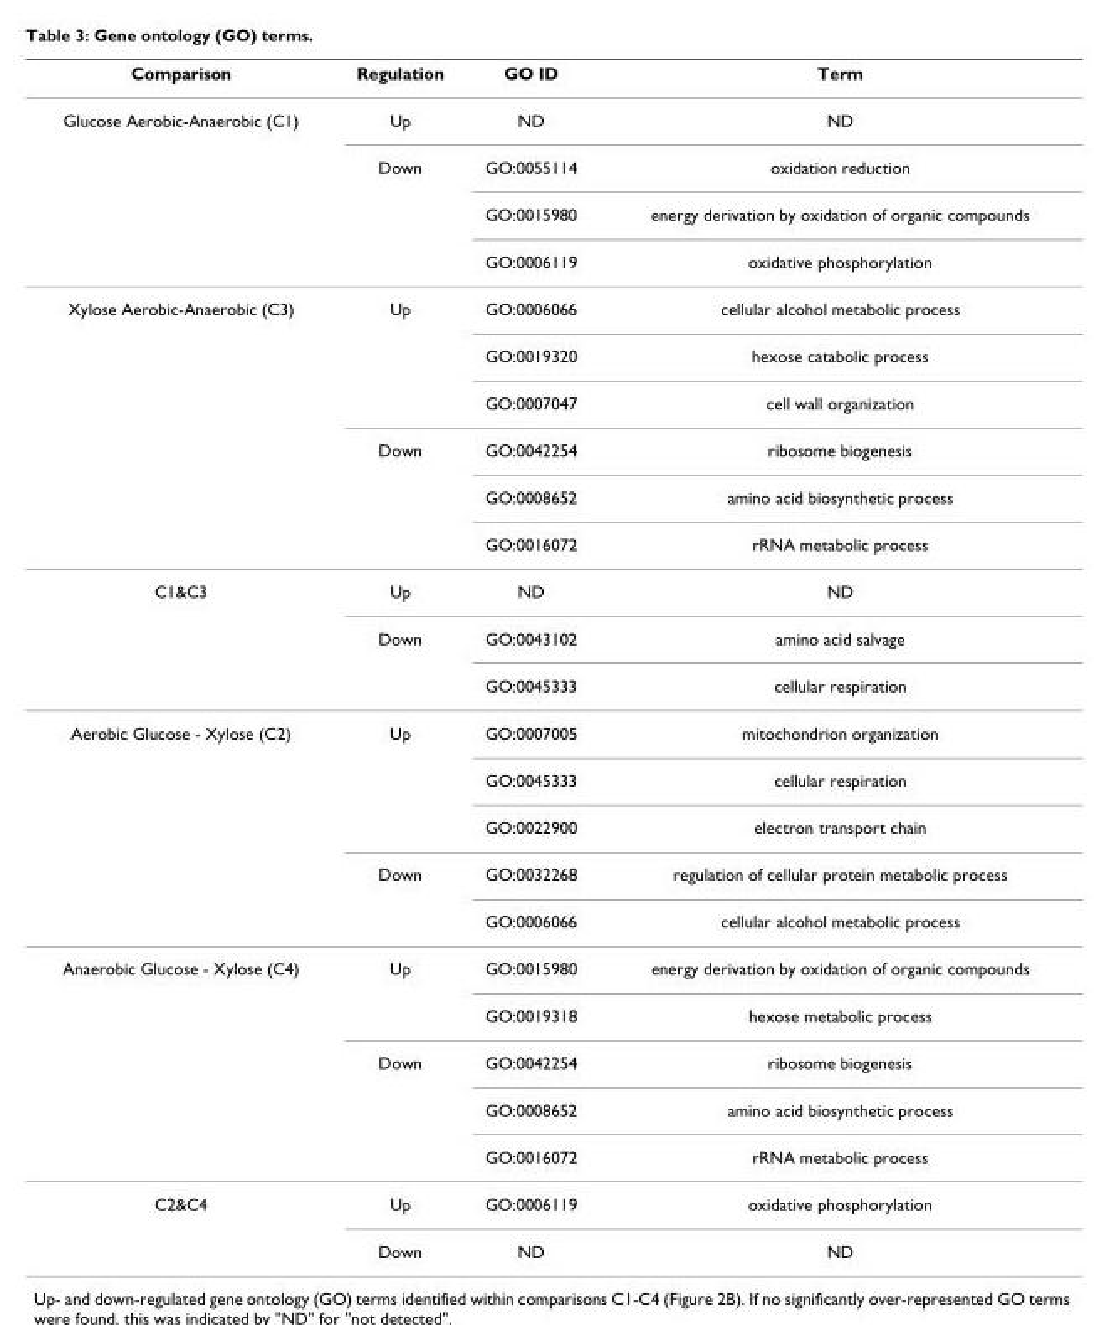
<table><thead><tr><td>Comparison</td><td>Regulation</td><td>GO ID</td><td>Term</td></tr></thead><tbody><tr><td rowspan="4">Glucose Aerobic-Anaerobic (C1)</td><td>Up</td><td>ND</td><td>ND</td></tr><tr><td>Down</td><td>GO:0055114</td><td>oxidation reduction</td></tr><tr><td></td><td>GO:0015980</td><td>energy derivation by oxidation of organic compounds</td></tr><tr><td></td><td>GO:0006119</td><td>oxidative phosphorylation</td></tr><tr><td rowspan="6">Xylose Aerobic-Anaerobic (C3)</td><td>Up</td><td>GO:0006066</td><td>cellular alcohol metabolic process</td></tr><tr><td></td><td>GO:0019320</td><td>hexose catabolic process</td></tr><tr><td></td><td>GO:0007047</td><td>cell wall organization</td></tr><tr><td>Down</td><td>GO:0042254</td><td>ribosome biogenesis</td></tr><tr><td></td><td>GO:0008652</td><td>amino acid biosynthetic process</td></tr><tr><td></td><td>GO:0016072</td><td>rRNA metabolic process</td></tr><tr><td rowspan="3">C1&amp;C3</td><td>Up</td><td>ND</td><td>ND</td></tr><tr><td>Down</td><td>GO:0043102</td><td>amino acid salvage</td></tr><tr><td></td><td>GO:0045333</td><td>cellular respiration</td></tr><tr><td rowspan="5">Aerobic Glucose - Xylose (C2)</td><td>Up</td><td>GO:0007005</td><td>mitochondrion organization</td></tr><tr><td></td><td>GO:0045333</td><td>cellular respiration</td></tr><tr><td></td><td>GO:0022900</td><td>electron transport chain</td></tr><tr><td>Down</td><td>GO:0032268</td><td>regulation of cellular protein metabolic process</td></tr><tr><td></td><td>GO:0006066</td><td>cellular alcohol metabolic process</td></tr><tr><td rowspan="5">Anaerobic Glucose - Xylose (C4)</td><td>Up</td><td>GO:0015980</td><td>energy derivation by oxidation of organic compounds</td></tr><tr><td></td><td>GO:0019318</td><td>hexose metabolic process</td></tr><tr><td>Down</td><td>GO:0042254</td><td>ribosome biogenesis</td></tr><tr><td></td><td>GO:0008652</td><td>amino acid biosynthetic process</td></tr><tr><td></td><td>GO:0016072</td><td>rRNA metabolic process</td></tr><tr><td rowspan="2">C2&amp;C4</td><td>Up</td><td>GO:0006119</td><td>oxidative phosphorylation</td></tr><tr><td>Down</td><td>ND</td><td>ND</td></tr></tbody></table>